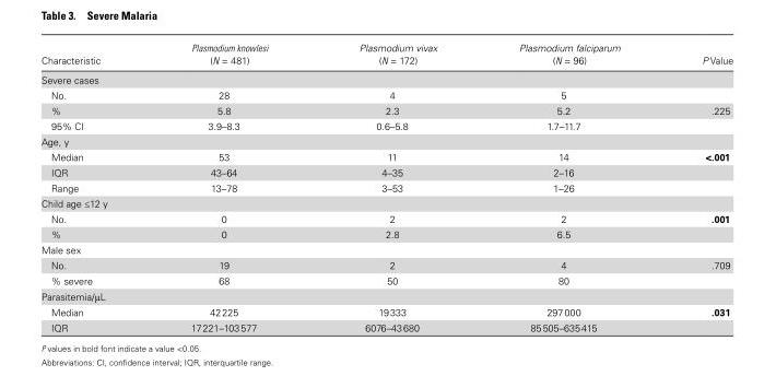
<table><thead><tr><td>Characteristic</td><td>Plasmodium knowlesi (N = 481)</td><td>Plasmodium vivax (N = 172)</td><td>Plasmodium falciparum (N = 96)</td><td>P Value</td></tr></thead><tbody><tr><td colspan="5">Severe cases</td></tr><tr><td>No.</td><td>28</td><td>4</td><td>5</td><td></td></tr><tr><td>%</td><td>5.8</td><td>2.3</td><td>5.2</td><td>.225</td></tr><tr><td>95% CI</td><td>3.9–8.3</td><td>0.6–5.8</td><td>1.7–11.7</td><td></td></tr><tr><td colspan="5">Age, y</td></tr><tr><td>Median</td><td>53</td><td>11</td><td>14</td><td>&lt;.001</td></tr><tr><td>IQR</td><td>43–64</td><td>4–35</td><td>2–16</td><td></td></tr><tr><td>Range</td><td>13–78</td><td>3–53</td><td>1–26</td><td></td></tr><tr><td colspan="5">Child age ≤12 y</td></tr><tr><td>No.</td><td>0</td><td>2</td><td>2</td><td>.001</td></tr><tr><td>%</td><td>0</td><td>2.8</td><td>6.5</td><td></td></tr><tr><td colspan="5">Male sex</td></tr><tr><td>No.</td><td>19</td><td>2</td><td>4</td><td>.709</td></tr><tr><td>% severe</td><td>68</td><td>50</td><td>80</td><td></td></tr><tr><td colspan="5">Parasitemia/μL</td></tr><tr><td>Median</td><td>42 225</td><td>19 333</td><td>297 000</td><td>.031</td></tr><tr><td>IQR</td><td>17 221–103 577</td><td>6076–43 680</td><td>85 505–635 415</td><td></td></tr></tbody></table>